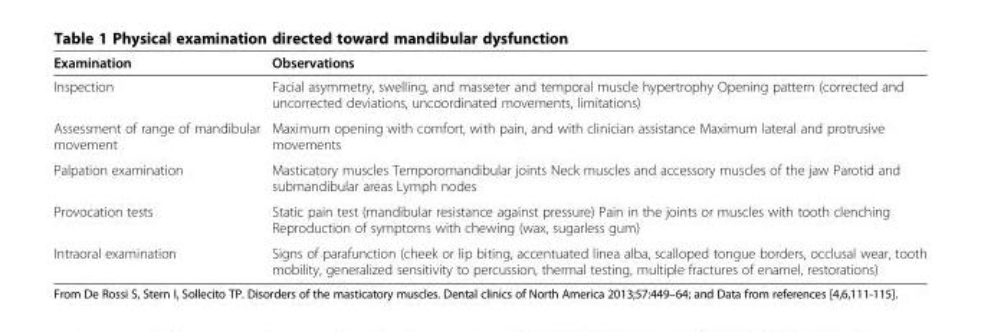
<table><thead><tr><td>Examination</td><td>Observations</td></tr></thead><tbody><tr><td>Inspection</td><td>Facial asymmetry, swelling, and masseter and temporal muscle hypertrophy Opening pattern (corrected and uncorrected deviations, uncoordinated movements, limitations)</td></tr><tr><td>Assessment of range of mandibular movement</td><td>Maximum opening with comfort, with pain, and with clinician assistance Maximum lateral and protrusive movements</td></tr><tr><td>Palpation examination</td><td>Masticatory muscles Temporomandibular joints Neck muscles and accessory muscles of the jaw Parotid and submandibular areas Lymph nodes</td></tr><tr><td>Provocation tests</td><td>Static pain test (mandibular resistance against pressure) Pain in the joints or muscles with tooth clenching Reproduction of symptoms with chewing (wax, sugarless gum)</td></tr><tr><td>Intraoral examination</td><td>Signs of parafunction (cheek or lip biting, accentuated linea alba, scalloped tongue borders, occlusal wear, tooth mobility, generalized sensitivity to percussion, thermal testing, multiple fractures of enamel, restorations)</td></tr></tbody></table>